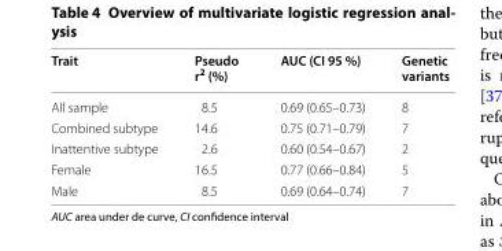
<table><thead><tr><td>Trait</td><td>Pseudo r<sup>2</sup> (%)</td><td>AUC (CI 95 %)</td><td>Genetic variants</td></tr></thead><tbody><tr><td>All sample</td><td>8.5</td><td>0.69 (0.65–0.73)</td><td>8</td></tr><tr><td>Combined subtype</td><td>14.6</td><td>0.75 (0.71–0.79)</td><td>7</td></tr><tr><td>Inattentive subtype</td><td>2.6</td><td>0.60 (0.54–0.67)</td><td>2</td></tr><tr><td>Female</td><td>16.5</td><td>0.77 (0.66–0.84)</td><td>5</td></tr><tr><td>Male</td><td>8.5</td><td>0.69 (0.64–0.74)</td><td>7</td></tr></tbody></table>